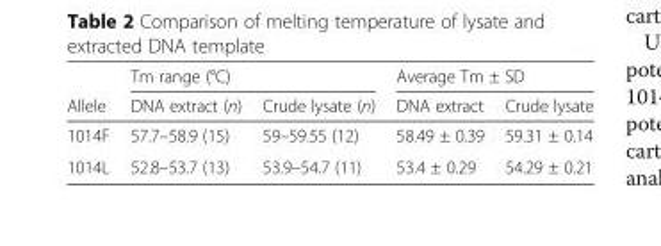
<table><thead><tr><td rowspan="2">Allele</td><td colspan="2">Tm range (°C)</td><td colspan="2">Average Tm ± SD</td></tr><tr><td>DNA extract (n)</td><td>Crude lysate (n)</td><td>DNA extract</td><td>Crude lysate</td></tr></thead><tbody><tr><td>1014F</td><td>57.7–58.9 (15)</td><td>59–59.55 (12)</td><td>58.49 ± 0.39</td><td>59.31 ± 0.14</td></tr><tr><td>1014L</td><td>52.8–53.7 (13)</td><td>53.9–54.7 (11)</td><td>53.4 ± 0.29</td><td>54.29 ± 0.21</td></tr></tbody></table>